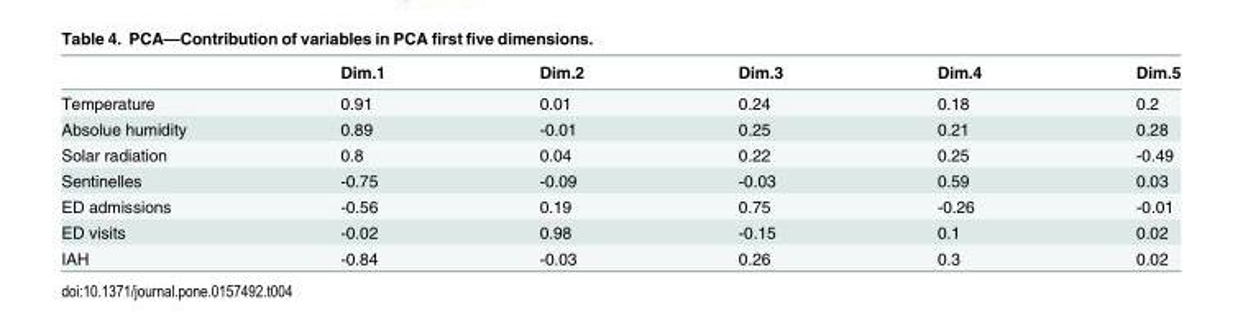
<table><thead><tr><td></td><td>Dim.1</td><td>Dim.2</td><td>Dim.3</td><td>Dim.4</td><td>Dim.5</td></tr></thead><tbody><tr><td>Temperature</td><td>0.91</td><td>0.01</td><td>0.24</td><td>0.18</td><td>0.2</td></tr><tr><td>Absolue humidity</td><td>0.89</td><td>-0.01</td><td>0.25</td><td>0.21</td><td>0.28</td></tr><tr><td>Solar radiation</td><td>0.8</td><td>0.04</td><td>0.22</td><td>0.25</td><td>-0.49</td></tr><tr><td>Sentinelles</td><td>-0.75</td><td>-0.09</td><td>-0.03</td><td>0.59</td><td>0.03</td></tr><tr><td>ED admissions</td><td>-0.56</td><td>0.19</td><td>0.75</td><td>-0.26</td><td>-0.01</td></tr><tr><td>ED visits</td><td>-0.02</td><td>0.98</td><td>-0.15</td><td>0.1</td><td>0.02</td></tr><tr><td>IAH</td><td>-0.84</td><td>-0.03</td><td>0.26</td><td>0.3</td><td>0.02</td></tr></tbody></table>